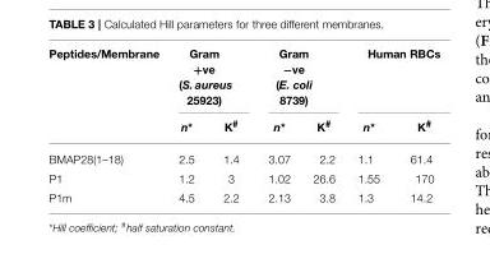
<table><thead><tr><td rowspan="2">Peptides/Membrane</td><td colspan="2">Gram +ve (S. aureus 25923)</td><td colspan="2">Gram −ve (E. coli 8739)</td><td colspan="2">Human RBCs</td></tr><tr><td>n*</td><td>K<sup>#</sup></td><td>n*</td><td>K<sup>#</sup></td><td>n*</td><td>K<sup>#</sup></td></tr></thead><tbody><tr><td>BMAP28(1–18)</td><td>2.5</td><td>1.4</td><td>3.07</td><td>2.2</td><td>1.1</td><td>61.4</td></tr><tr><td>P1</td><td>1.2</td><td>3</td><td>1.02</td><td>26.6</td><td>1.55</td><td>170</td></tr><tr><td>P1m</td><td>4.5</td><td>2.2</td><td>2.13</td><td>3.8</td><td>1.3</td><td>14.2</td></tr></tbody></table>